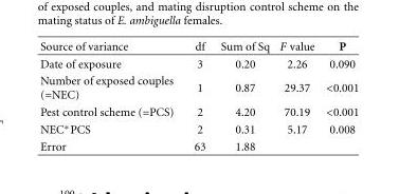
<table><thead><tr><td>Source of variance</td><td>df</td><td>Sum of Sq</td><td>F value</td><td>P</td></tr></thead><tbody><tr><td>Date of exposure</td><td>3</td><td>0.20</td><td>2.26</td><td>0.090</td></tr><tr><td>Number of exposed couples (=NEC)</td><td>1</td><td>0.87</td><td>29.37</td><td>&lt;0.001</td></tr><tr><td>Pest control scheme (=PCS)</td><td>2</td><td>4.20</td><td>70.19</td><td>&lt;0.001</td></tr><tr><td>NEC∗PCS</td><td>2</td><td>0.31</td><td>5.17</td><td>0.008</td></tr><tr><td>Error</td><td>63</td><td>1.88</td><td></td><td></td></tr></tbody></table>